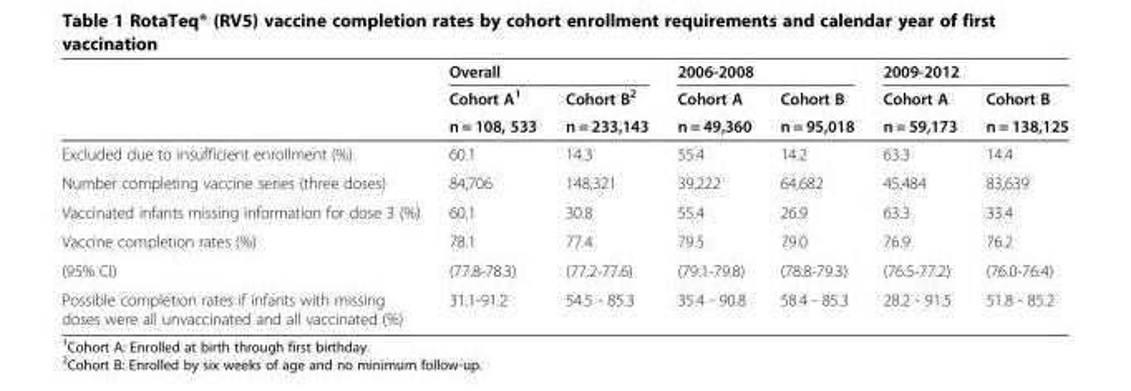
<table><thead><tr><td rowspan="3"></td><td colspan="2">Overall</td><td colspan="2">2006-2008</td><td colspan="2">2009-2012</td></tr><tr><td rowspan="2">Cohort A<sup>1</sup> n = 108, 533</td><td rowspan="2">Cohort B<sup>2</sup> n = 233,143</td><td rowspan="2">Cohort A n = 49,360</td><td rowspan="2">Cohort B n = 95,018</td><td rowspan="2">Cohort A n = 59,173</td><td rowspan="2">Cohort B n = 138,125</td></tr><tr></tr></thead><tbody><tr><td>Excluded due to insufficient enrollment (%)</td><td>60.1</td><td>14.3</td><td>55.4</td><td>14.2</td><td>63.3</td><td>14.4</td></tr><tr><td>Number completing vaccine series (three doses)</td><td>84,706</td><td>148,321</td><td>39,222</td><td>64,682</td><td>45,484</td><td>83,639</td></tr><tr><td>Vaccinated infants missing information for dose 3 (%)</td><td>60.1</td><td>30.8</td><td>55.4</td><td>26.9</td><td>63.3</td><td>33.4</td></tr><tr><td>Vaccine completion rates (%)</td><td>78.1</td><td>77.4</td><td>79.5</td><td>79.0</td><td>76.9</td><td>76.2</td></tr><tr><td>(95% CI)</td><td>(77.8-78.3)</td><td>(77.2-77.6)</td><td>(79.1-79.8)</td><td>(78.8-79.3)</td><td>(76.5-77.2)</td><td>(76.0-76.4)</td></tr><tr><td>Possible completion rates if infants with missing doses were all unvaccinated and all vaccinated (%)</td><td>31.1-91.2</td><td>54.5 - 85.3</td><td>35.4 - 90.8</td><td>58.4 - 85.3</td><td>28.2 - 91.5</td><td>51.8 - 85.2</td></tr></tbody></table>